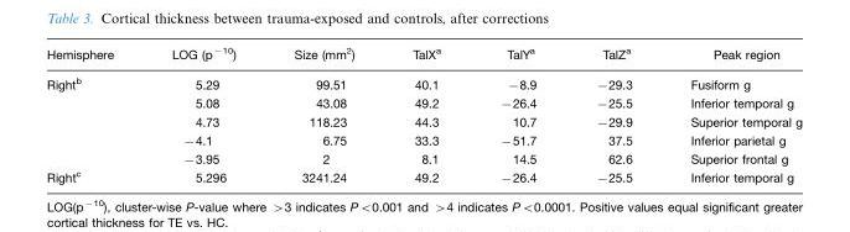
<table><thead><tr><td>Hemisphere</td><td>LOG (p<sup>−10</sup>)</td><td>Size (mm<sup>2</sup>)</td><td>TalX<sup>a</sup></td><td>TalY<sup>a</sup></td><td>TalZ<sup>a</sup></td><td>Peak region</td></tr></thead><tbody><tr><td rowspan="5">Right<sup>b</sup></td><td>5.29</td><td>99.51</td><td>40.1</td><td>−8.9</td><td>−29.3</td><td>Fusiform g</td></tr><tr><td>5.08</td><td>43.08</td><td>49.2</td><td>−26.4</td><td>−25.5</td><td>Inferior temporal g</td></tr><tr><td>4.73</td><td>118.23</td><td>44.3</td><td>10.7</td><td>−29.9</td><td>Superior temporal g</td></tr><tr><td>−4.1</td><td>6.75</td><td>33.3</td><td>−51.7</td><td>37.5</td><td>Inferior parietal g</td></tr><tr><td>−3.95</td><td>2</td><td>8.1</td><td>14.5</td><td>62.6</td><td>Superior frontal g</td></tr><tr><td>Right<sup>c</sup></td><td>5.296</td><td>3241.24</td><td>49.2</td><td>−26.4</td><td>−25.5</td><td>Inferior temporal g</td></tr></tbody></table>